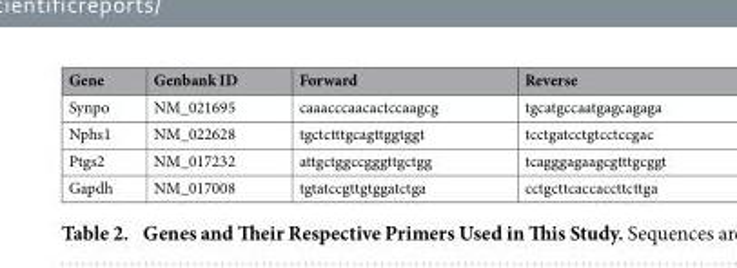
<table><thead><tr><td>Gene</td><td>Genbank ID</td><td>Forward</td><td>Reverse</td></tr></thead><tbody><tr><td>Synpo</td><td>NM_021695</td><td>caaacccaacactccaagcg</td><td>tgcatgccaatgagcagaga</td></tr><tr><td>Nphs1</td><td>NM_022628</td><td>tgctctttgcagttggtggt</td><td>tcctgatcctgtcctccgac</td></tr><tr><td>Ptgs2</td><td>NM_017232</td><td>attgctggccgggttgctgg</td><td>tcagggagaagcgtttgcggt</td></tr><tr><td>Gapdh</td><td>NM_017008</td><td>tgtatccgttgtggatctga</td><td>cctgcttcaccaccttcttga</td></tr></tbody></table>